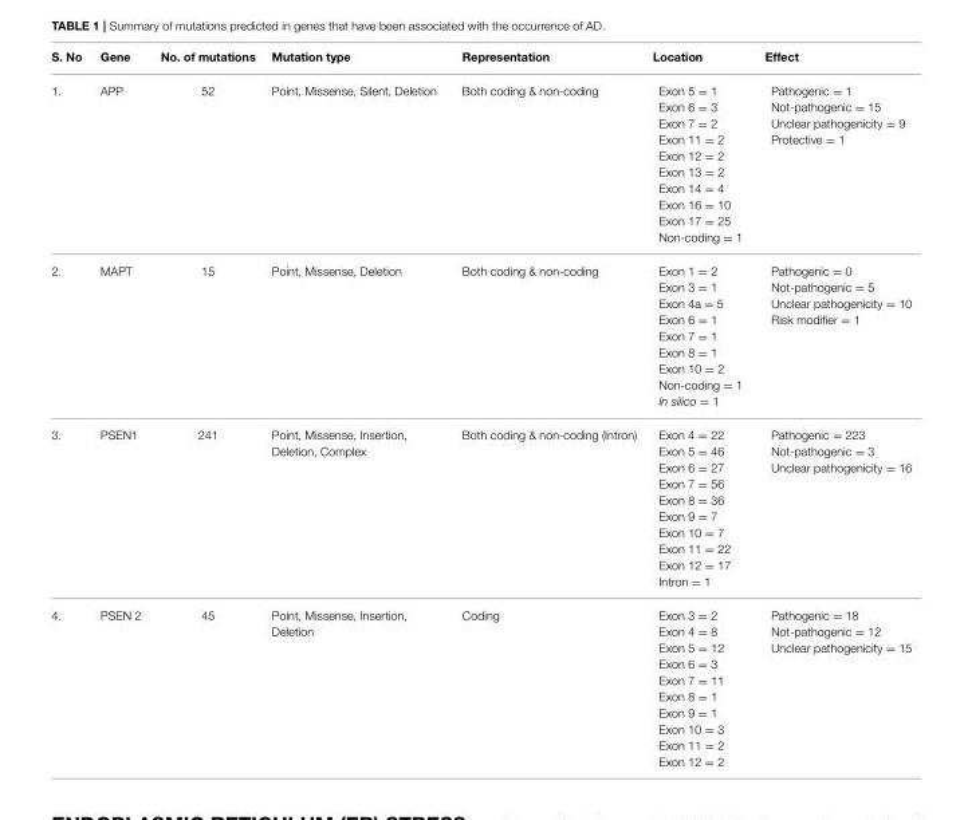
<table><thead><tr><td>S. No</td><td>Gene</td><td>No. of mutations</td><td>Mutation type</td><td>Representation</td><td>Location</td><td>Effect</td></tr></thead><tbody><tr><td>1.</td><td>APP</td><td>52</td><td>Point, Missense, Silent, Deletion</td><td>Both coding &amp; non-coding</td><td>Exon 5 = 1 Exon 6 = 3 Exon 7 = 2 Exon 11 = 2 Exon 12 = 2 Exon 13 = 2 Exon 14 = 4 Exon 16 = 10 Exon 17 = 25 Non-coding = 1</td><td>Pathogenic = 1 Not-pathogenic = 15 Unclear pathogenicity = 9 Protective = 1</td></tr><tr><td>2.</td><td>MAPT</td><td>15</td><td>Point, Missense, Deletion</td><td>Both coding &amp; non-coding</td><td>Exon 1 = 2 Exon 3 = 1 Exon 4a = 5 Exon 6 = 1 Exon 7 = 1 Exon 8 = 1 Exon 10 = 2 Non-coding = 1 In silico = 1</td><td>Pathogenic = 0 Not-pathogenic = 5 Unclear pathogenicity = 10 Risk modifier = 1</td></tr><tr><td>3.</td><td>PSEN1</td><td>241</td><td>Point, Missense, Insertion, Deletion, Complex</td><td>Both coding &amp; non-coding (Intron)</td><td>Exon 4 = 22 Exon 5 = 46 Exon 6 = 27 Exon 7 = 56 Exon 8 = 36 Exon 9 = 7 Exon 10 = 7 Exon 11 = 22 Exon 12 = 17 Intron = 1</td><td>Pathogenic = 223 Not-pathogenic = 3 Unclear pathogenicity = 16</td></tr><tr><td>4.</td><td>PSEN 2</td><td>45</td><td>Point, Missense, Insertion, Deletion</td><td>Coding</td><td>Exon 3 = 2 Exon 4 = 8 Exon 5 = 12 Exon 6 = 3 Exon 7 = 11 Exon 8 = 1 Exon 9 = 1 Exon 10 = 3 Exon 11 = 2 Exon 12 = 2</td><td>Pathogenic = 18 Not-pathogenic = 12 Unclear pathogenicity = 15</td></tr></tbody></table>